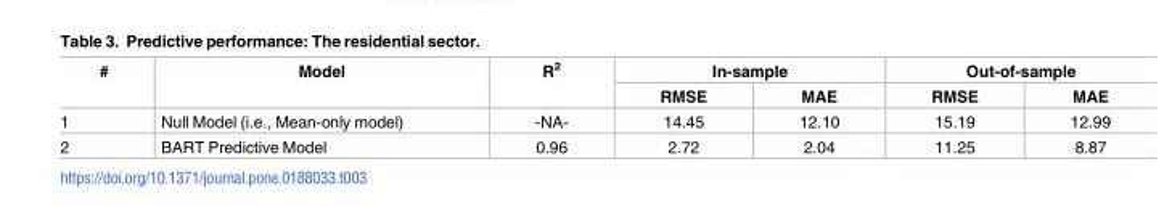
<table><thead><tr><td rowspan="2">#</td><td rowspan="2">Model</td><td rowspan="2">R<sup>2</sup></td><td colspan="2">In-sample</td><td colspan="2">Out-of-sample</td></tr><tr><td>RMSE</td><td>MAE</td><td>RMSE</td><td>MAE</td></tr></thead><tbody><tr><td>1</td><td>Null Model (i.e., Mean-only model)</td><td>-NA-</td><td>14.45</td><td>12.10</td><td>15.19</td><td>12.99</td></tr><tr><td>2</td><td>BART Predictive Model</td><td>0.96</td><td>2.72</td><td>2.04</td><td>11.25</td><td>8.87</td></tr></tbody></table>